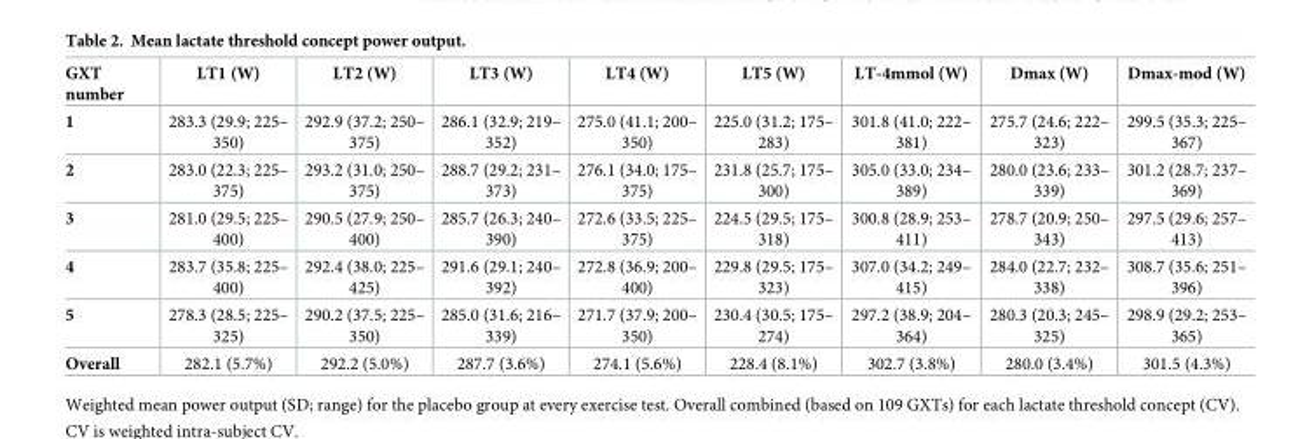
<table><thead><tr><td>GXT number</td><td>LT1 (W)</td><td>LT2 (W)</td><td>LT3 (W)</td><td>LT4 (W)</td><td>LT5 (W)</td><td>LT-4mmol (W)</td><td>Dmax (W)</td><td>Dmax-mod (W)</td></tr></thead><tbody><tr><td>1</td><td>283.3 (29.9; 225– 350)</td><td>292.9 (37.2; 250– 375)</td><td>286.1 (32.9; 219– 352)</td><td>275.0 (41.1; 200– 350)</td><td>225.0 (31.2; 175– 283)</td><td>301.8 (41.0; 222– 381)</td><td>275.7 (24.6; 222– 323)</td><td>299.5 (35.3; 225– 367)</td></tr><tr><td>2</td><td>283.0 (22.3; 225– 375)</td><td>293.2 (31.0; 250– 375)</td><td>288.7 (29.2; 231– 373)</td><td>276.1 (34.0; 175– 375)</td><td>231.8 (25.7; 175– 300)</td><td>305.0 (33.0; 234– 389)</td><td>280.0 (23.6; 233– 339)</td><td>301.2 (28.7; 237– 369)</td></tr><tr><td>3</td><td>281.0 (29.5; 225– 400)</td><td>290.5 (27.9; 250– 400)</td><td>285.7 (26.3; 240– 390)</td><td>272.6 (33.5; 225– 375)</td><td>224.5 (29.5; 175– 318)</td><td>300.8 (28.9; 253– 411)</td><td>278.7 (20.9; 250– 343)</td><td>297.5 (29.6; 257– 413)</td></tr><tr><td>4</td><td>283.7 (35.8; 225– 400)</td><td>292.4 (38.0; 225– 425)</td><td>291.6 (29.1; 240– 392)</td><td>272.8 (36.9; 200– 400)</td><td>229.8 (29.5; 175– 323)</td><td>307.0 (34.2; 249– 415)</td><td>284.0 (22.7; 232– 338)</td><td>308.7 (35.6; 251– 396)</td></tr><tr><td>5</td><td>278.3 (28.5; 225– 325)</td><td>290.2 (37.5; 225– 350)</td><td>285.0 (31.6; 216– 339)</td><td>271.7 (37.9; 200– 350)</td><td>230.4 (30.5; 175– 274)</td><td>297.2 (38.9; 204– 364)</td><td>280.3 (20.3; 245– 325)</td><td>298.9 (29.2; 253– 365)</td></tr><tr><td>Overall</td><td>282.1 (5.7%)</td><td>292.2 (5.0%)</td><td>287.7 (3.6%)</td><td>274.1 (5.6%)</td><td>228.4 (8.1%)</td><td>302.7 (3.8%)</td><td>280.0 (3.4%)</td><td>301.5 (4.3%)</td></tr></tbody></table>